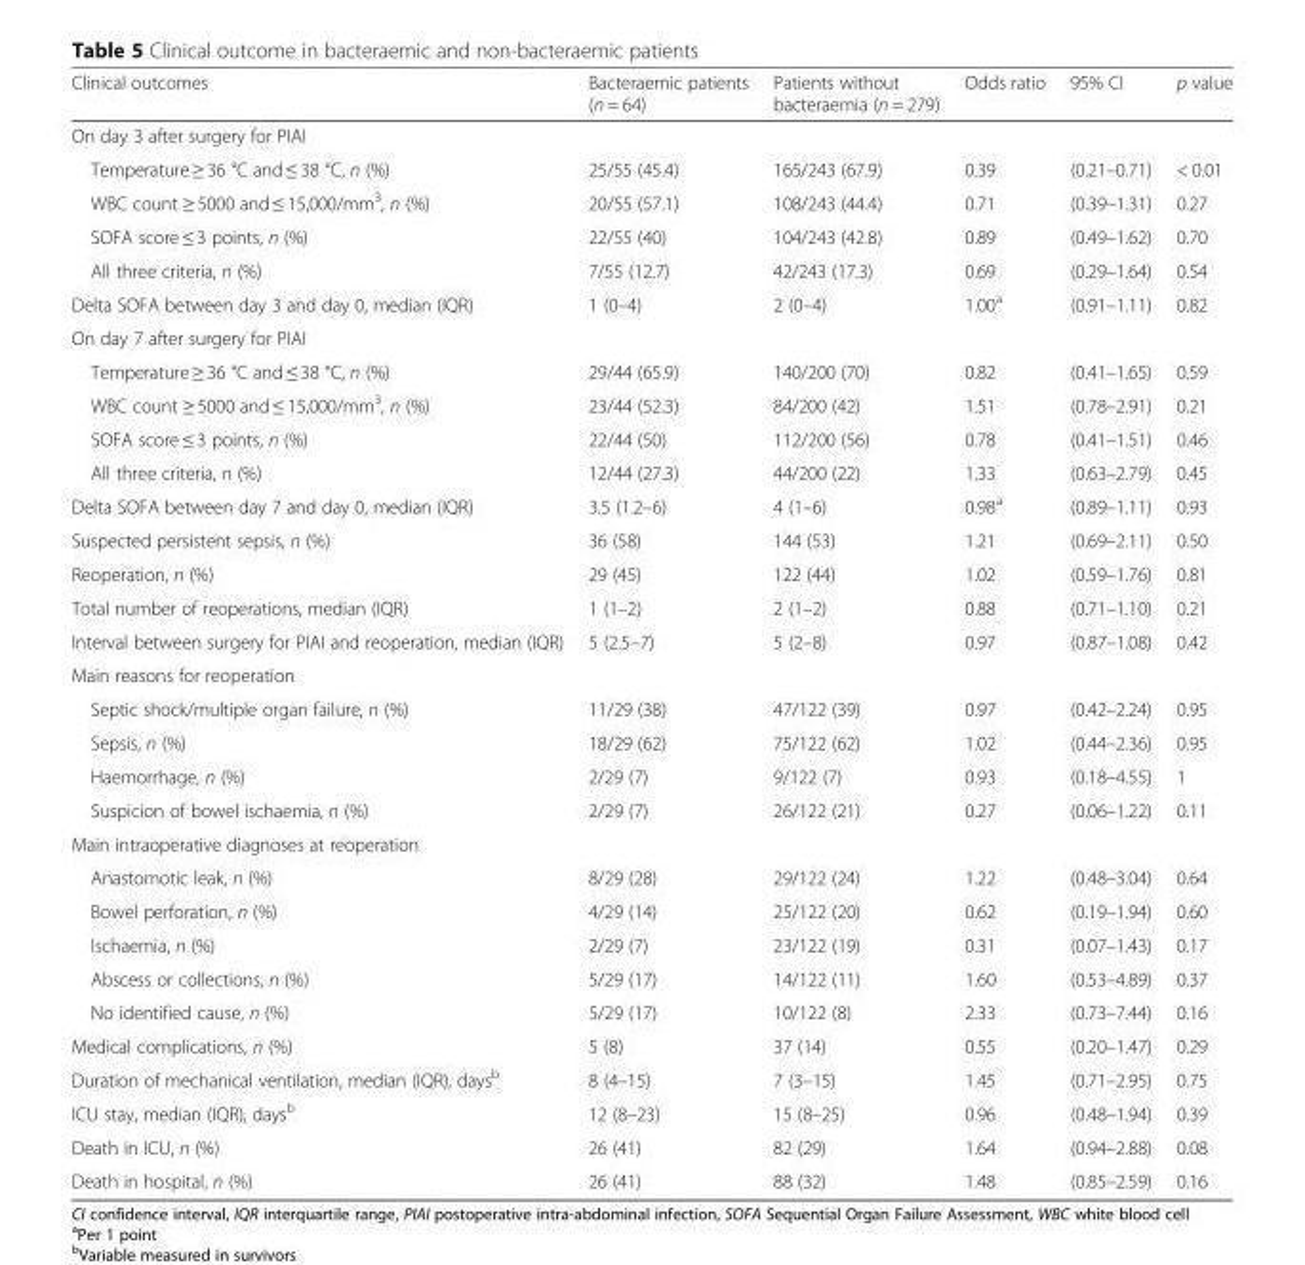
<table><thead><tr><td>Clinical outcomes</td><td>Bacteraemic patients (n = 64)</td><td>Patients without bacteraemia (n = 279)</td><td>Odds ratio</td><td>95% CI</td><td>p value</td></tr></thead><tbody><tr><td colspan="6">On day 3 after surgery for PIAI</td></tr><tr><td>Temperature ≥ 36 °C and ≤ 38 °C, n (%)</td><td>25/55 (45.4)</td><td>165/243 (67.9)</td><td>0.39</td><td>(0.21–0.71)</td><td>&lt; 0.01</td></tr><tr><td>WBC count ≥ 5000 and ≤ 15,000/mm<sup>3</sup>, n (%)</td><td>20/55 (57.1)</td><td>108/243 (44.4)</td><td>0.71</td><td>(0.39–1.31)</td><td>0.27</td></tr><tr><td>SOFA score ≤ 3 points, n (%)</td><td>22/55 (40)</td><td>104/243 (42.8)</td><td>0.89</td><td>(0.49–1.62)</td><td>0.70</td></tr><tr><td>All three criteria, n (%)</td><td>7/55 (12.7)</td><td>42/243 (17.3)</td><td>0.69</td><td>(0.29–1.64)</td><td>0.54</td></tr><tr><td>Delta SOFA between day 3 and day 0, median (IQR)</td><td>1 (0–4)</td><td>2 (0–4)</td><td>1.00<sup>a</sup></td><td>(0.91–1.11)</td><td>0.82</td></tr><tr><td colspan="6">On day 7 after surgery for PIAI</td></tr><tr><td>Temperature ≥ 36 °C and ≤ 38 °C, n (%)</td><td>29/44 (65.9)</td><td>140/200 (70)</td><td>0.82</td><td>(0.41–1.65)</td><td>0.59</td></tr><tr><td>WBC count ≥ 5000 and ≤ 15,000/mm<sup>3</sup>, n (%)</td><td>23/44 (52.3)</td><td>84/200 (42)</td><td>1.51</td><td>(0.78–2.91)</td><td>0.21</td></tr><tr><td>SOFA score ≤ 3 points, n (%)</td><td>22/44 (50)</td><td>112/200 (56)</td><td>0.78</td><td>(0.41–1.51)</td><td>0.46</td></tr><tr><td>All three criteria, n (%)</td><td>12/44 (27.3)</td><td>44/200 (22)</td><td>1.33</td><td>(0.63–2.79)</td><td>0.45</td></tr><tr><td>Delta SOFA between day 7 and day 0, median (IQR)</td><td>3.5 (1.2–6)</td><td>4 (1–6)</td><td>0.98<sup>a</sup></td><td>(0.89–1.11)</td><td>0.93</td></tr><tr><td>Suspected persistent sepsis, n (%)</td><td>36 (58)</td><td>144 (53)</td><td>1.21</td><td>(0.69–2.11)</td><td>0.50</td></tr><tr><td>Reoperation, n (%)</td><td>29 (45)</td><td>122 (44)</td><td>1.02</td><td>(0.59–1.76)</td><td>0.81</td></tr><tr><td>Total number of reoperations, median (IQR)</td><td>1 (1–2)</td><td>2 (1–2)</td><td>0.88</td><td>(0.71–1.10)</td><td>0.21</td></tr><tr><td>Interval between surgery for PIAI and reoperation, median (IQR)</td><td>5 (2.5–7)</td><td>5 (2–8)</td><td>0.97</td><td>(0.87–1.08)</td><td>0.42</td></tr><tr><td colspan="6">Main reasons for reoperation</td></tr><tr><td>Septic shock/multiple organ failure, n (%)</td><td>11/29 (38)</td><td>47/122 (39)</td><td>0.97</td><td>(0.42–2.24)</td><td>0.95</td></tr><tr><td>Sepsis, n (%)</td><td>18/29 (62)</td><td>75/122 (62)</td><td>1.02</td><td>(0.44–2.36)</td><td>0.95</td></tr><tr><td>Haemorrhage, n (%)</td><td>2/29 (7)</td><td>9/122 (7)</td><td>0.93</td><td>(0.18–4.55)</td><td>1</td></tr><tr><td>Suspicion of bowel ischaemia, n (%)</td><td>2/29 (7)</td><td>26/122 (21)</td><td>0.27</td><td>(0.06–1.22)</td><td>0.11</td></tr><tr><td colspan="6">Main intraoperative diagnoses at reoperation</td></tr><tr><td>Anastomotic leak, n (%)</td><td>8/29 (28)</td><td>29/122 (24)</td><td>1.22</td><td>(0.48–3.04)</td><td>0.64</td></tr><tr><td>Bowel perforation, n (%)</td><td>4/29 (14)</td><td>25/122 (20)</td><td>0.62</td><td>(0.19–1.94)</td><td>0.60</td></tr><tr><td>Ischaemia, n (%)</td><td>2/29 (7)</td><td>23/122 (19)</td><td>0.31</td><td>(0.07–1.43)</td><td>0.17</td></tr><tr><td>Abscess or collections, n (%)</td><td>5/29 (17)</td><td>14/122 (11)</td><td>1.60</td><td>(0.53–4.89)</td><td>0.37</td></tr><tr><td>No identified cause, n (%)</td><td>5/29 (17)</td><td>10/122 (8)</td><td>2.33</td><td>(0.73–7.44)</td><td>0.16</td></tr><tr><td>Medical complications, n (%)</td><td>5 (8)</td><td>37 (14)</td><td>0.55</td><td>(0.20–1.47)</td><td>0.29</td></tr><tr><td>Duration of mechanical ventilation, median (IQR), days<sup>b</sup></td><td>8 (4–15)</td><td>7 (3–15)</td><td>1.45</td><td>(0.71–2.95)</td><td>0.75</td></tr><tr><td>ICU stay, median (IQR), days<sup>b</sup></td><td>12 (8–23)</td><td>15 (8–25)</td><td>0.96</td><td>(0.48–1.94)</td><td>0.39</td></tr><tr><td>Death in ICU, n (%)</td><td>26 (41)</td><td>82 (29)</td><td>1.64</td><td>(0.94–2.88)</td><td>0.08</td></tr><tr><td>Death in hospital, n (%)</td><td>26 (41)</td><td>88 (32)</td><td>1.48</td><td>(0.85–2.59)</td><td>0.16</td></tr></tbody></table>